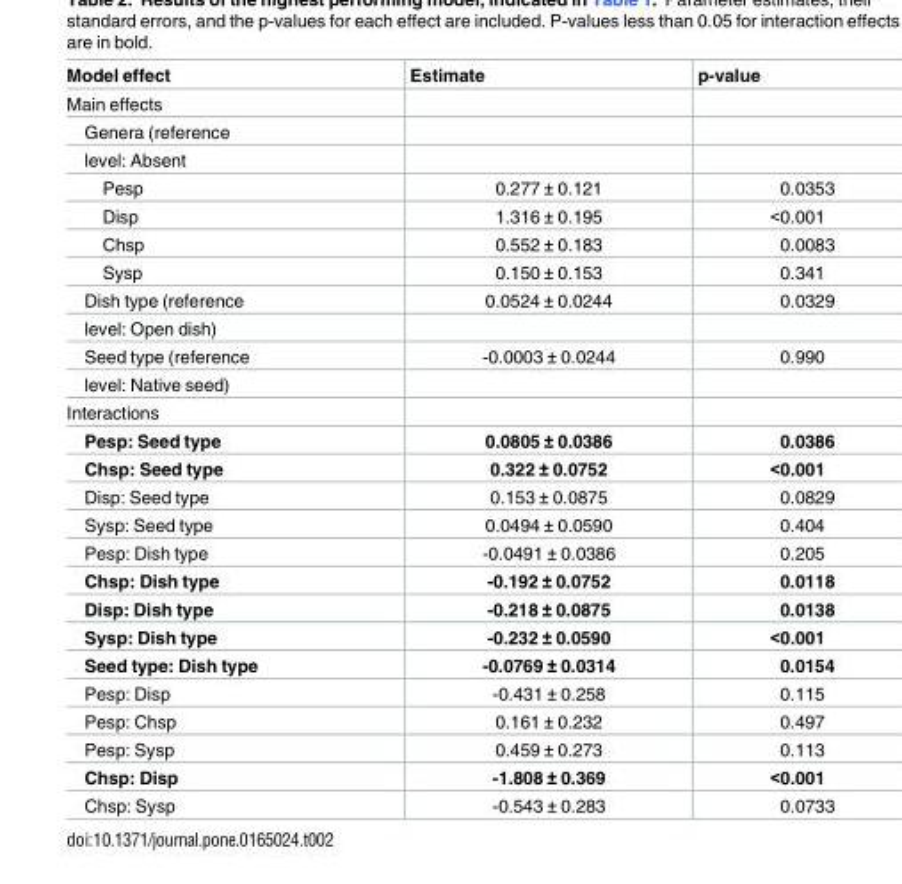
<table><thead><tr><td>Model effect</td><td>Estimate</td><td>p-value</td></tr></thead><tbody><tr><td colspan="3">Main effects</td></tr><tr><td colspan="3">Genera (reference</td></tr><tr><td colspan="3">level: Absent</td></tr><tr><td>Pesp</td><td>0.277 ± 0.121</td><td>0.0353</td></tr><tr><td>Disp</td><td>1.316 ± 0.195</td><td>&lt;0.001</td></tr><tr><td>Chsp</td><td>0.552 ± 0.183</td><td>0.0083</td></tr><tr><td>Sysp</td><td>0.150 ± 0.153</td><td>0.341</td></tr><tr><td>Dish type (reference</td><td>0.0524 ± 0.0244</td><td>0.0329</td></tr><tr><td colspan="3">level: Open dish)</td></tr><tr><td>Seed type (reference</td><td>-0.0003 ± 0.0244</td><td>0.990</td></tr><tr><td colspan="3">level: Native seed)</td></tr><tr><td colspan="3">Interactions</td></tr><tr><td>Pesp: Seed type</td><td>0.0805 ± 0.0386</td><td>0.0386</td></tr><tr><td>Chsp: Seed type</td><td>0.322 ± 0.0752</td><td>&lt;0.001</td></tr><tr><td>Disp: Seed type</td><td>0.153 ± 0.0875</td><td>0.0829</td></tr><tr><td>Sysp: Seed type</td><td>0.0494 ± 0.0590</td><td>0.404</td></tr><tr><td>Pesp: Dish type</td><td>-0.0491 ± 0.0386</td><td>0.205</td></tr><tr><td>Chsp: Dish type</td><td>-0.192 ± 0.0752</td><td>0.0118</td></tr><tr><td>Disp: Dish type</td><td>-0.218 ± 0.0875</td><td>0.0138</td></tr><tr><td>Sysp: Dish type</td><td>-0.232 ± 0.0590</td><td>&lt;0.001</td></tr><tr><td>Seed type: Dish type</td><td>-0.0769 ± 0.0314</td><td>0.0154</td></tr><tr><td>Pesp: Disp</td><td>-0.431 ± 0.258</td><td>0.115</td></tr><tr><td>Pesp: Chsp</td><td>0.161 ± 0.232</td><td>0.497</td></tr><tr><td>Pesp: Sysp</td><td>0.459 ± 0.273</td><td>0.113</td></tr><tr><td>Chsp: Disp</td><td>-1.808 ± 0.369</td><td>&lt;0.001</td></tr><tr><td>Chsp: Sysp</td><td>-0.543 ± 0.283</td><td>0.0733</td></tr></tbody></table>